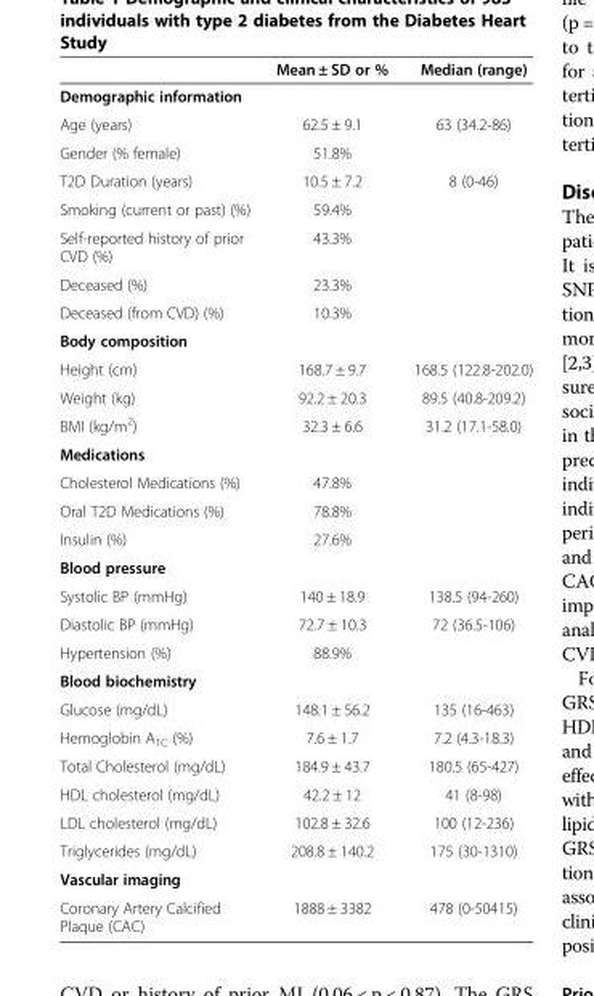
<table><thead><tr><td></td><td>Mean ± SD or %</td><td>Median (range)</td></tr></thead><tbody><tr><td colspan="3">Demographic information</td></tr><tr><td>Age (years)</td><td>62.5 ± 9.1</td><td>63 (34.2-86)</td></tr><tr><td>Gender (% female)</td><td>51.8%</td><td></td></tr><tr><td>T2D Duration (years)</td><td>10.5 ± 7.2</td><td>8 (0-46)</td></tr><tr><td>Smoking (current or past) (%)</td><td>59.4%</td><td></td></tr><tr><td>Self-reported history of prior CVD (%)</td><td>43.3%</td><td></td></tr><tr><td>Deceased (%)</td><td>23.3%</td><td></td></tr><tr><td>Deceased (from CVD) (%)</td><td>10.3%</td><td></td></tr><tr><td colspan="3">Body composition</td></tr><tr><td>Height (cm)</td><td>168.7 ± 9.7</td><td>168.5 (122.8-202.0)</td></tr><tr><td>Weight (kg)</td><td>92.2 ± 20.3</td><td>89.5 (40.8-209.2)</td></tr><tr><td>BMI (kg/m<sup>2</sup>)</td><td>32.3 ± 6.6</td><td>31.2 (17.1-58.0)</td></tr><tr><td colspan="3">Medications</td></tr><tr><td>Cholesterol Medications (%)</td><td>47.8%</td><td></td></tr><tr><td>Oral T2D Medications (%)</td><td>78.8%</td><td></td></tr><tr><td>Insulin (%)</td><td>27.6%</td><td></td></tr><tr><td colspan="3">Blood pressure</td></tr><tr><td>Systolic BP (mmHg)</td><td>140 ± 18.9</td><td>138.5 (94-260)</td></tr><tr><td>Diastolic BP (mmHg)</td><td>72.7 ± 10.3</td><td>72 (36.5-106)</td></tr><tr><td>Hypertension (%)</td><td>88.9%</td><td></td></tr><tr><td colspan="3">Blood biochemistry</td></tr><tr><td>Glucose (mg/dL)</td><td>148.1 ± 56.2</td><td>135 (16-463)</td></tr><tr><td>Hemoglobin A<sub>1C</sub> (%)</td><td>7.6 ± 1.7</td><td>7.2 (4.3-18.3)</td></tr><tr><td>Total Cholesterol (mg/dL)</td><td>184.9 ± 43.7</td><td>180.5 (65-427)</td></tr><tr><td>HDL cholesterol (mg/dL)</td><td>42.2 ± 12</td><td>41 (8-98)</td></tr><tr><td>LDL cholesterol (mg/dL)</td><td>102.8 ± 32.6</td><td>100 (12-236)</td></tr><tr><td>Triglycerides (mg/dL)</td><td>208.8 ± 140.2</td><td>175 (30-1310)</td></tr><tr><td colspan="3">Vascular imaging</td></tr><tr><td>Coronary Artery Calcified Plaque (CAC)</td><td>1888 ± 3382</td><td>478 (0-50415)</td></tr></tbody></table>